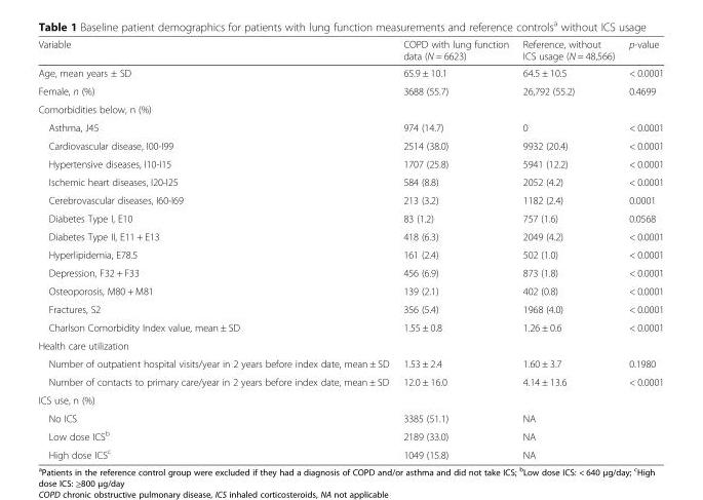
<table><thead><tr><td>Variable</td><td>COPD with lung function data (N = 6623)</td><td>Reference, without ICS usage (N = 48,566)</td><td>p-value</td></tr></thead><tbody><tr><td>Age, mean years ± SD</td><td>65.9 ± 10.1</td><td>64.5 ± 10.5</td><td>&lt; 0.0001</td></tr><tr><td>Female, n (%)</td><td>3688 (55.7)</td><td>26,792 (55.2)</td><td>0.4699</td></tr><tr><td colspan="4">Comorbidities below, n (%)</td></tr><tr><td>Asthma, J45</td><td>974 (14.7)</td><td>0</td><td>&lt; 0.0001</td></tr><tr><td>Cardiovascular disease, I00-I99</td><td>2514 (38.0)</td><td>9932 (20.4)</td><td>&lt; 0.0001</td></tr><tr><td>Hypertensive diseases, I10-I15</td><td>1707 (25.8)</td><td>5941 (12.2)</td><td>&lt; 0.0001</td></tr><tr><td>Ischemic heart diseases, I20-I25</td><td>584 (8.8)</td><td>2052 (4.2)</td><td>&lt; 0.0001</td></tr><tr><td>Cerebrovascular diseases, I60-I69</td><td>213 (3.2)</td><td>1182 (2.4)</td><td>0.0001</td></tr><tr><td>Diabetes Type I, E10</td><td>83 (1.2)</td><td>757 (1.6)</td><td>0.0568</td></tr><tr><td>Diabetes Type II, E11 + E13</td><td>418 (6.3)</td><td>2049 (4.2)</td><td>&lt; 0.0001</td></tr><tr><td>Hyperlipidemia, E78.5</td><td>161 (2.4)</td><td>502 (1.0)</td><td>&lt; 0.0001</td></tr><tr><td>Depression, F32 + F33</td><td>456 (6.9)</td><td>873 (1.8)</td><td>&lt; 0.0001</td></tr><tr><td>Osteoporosis, M80 + M81</td><td>139 (2.1)</td><td>402 (0.8)</td><td>&lt; 0.0001</td></tr><tr><td>Fractures, S2</td><td>356 (5.4)</td><td>1968 (4.0)</td><td>&lt; 0.0001</td></tr><tr><td>Charlson Comorbidity Index value, mean ± SD</td><td>1.55 ± 0.8</td><td>1.26 ± 0.6</td><td>&lt; 0.0001</td></tr><tr><td colspan="4">Health care utilization</td></tr><tr><td>Number of outpatient hospital visits/year in 2 years before index date, mean ± SD</td><td>1.53 ± 2.4</td><td>1.60 ± 3.7</td><td>0.1980</td></tr><tr><td>Number of contacts to primary care/year in 2 years before index date, mean ± SD</td><td>12.0 ± 16.0</td><td>4.14 ± 13.6</td><td>&lt; 0.0001</td></tr><tr><td colspan="4">ICS use, n (%)</td></tr><tr><td>No ICS</td><td>3385 (51.1)</td><td>NA</td><td></td></tr><tr><td>Low dose ICS<sup>b</sup></td><td>2189 (33.0)</td><td>NA</td><td></td></tr><tr><td>High dose ICS<sup>c</sup></td><td>1049 (15.8)</td><td>NA</td><td></td></tr></tbody></table>